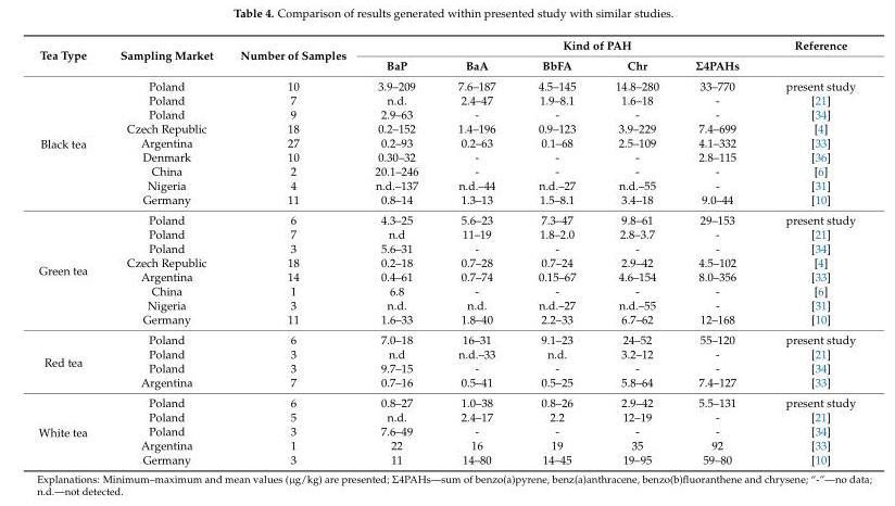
<table><thead><tr><td rowspan="2">Tea Type</td><td rowspan="2">Sampling Market</td><td rowspan="2">Number of Samples</td><td rowspan="2">BaP</td><td colspan="4">Kind of PAH</td><td rowspan="2">Reference</td></tr><tr><td>BaA</td><td>BbFA</td><td>Chr</td><td>Σ4PAHs</td></tr></thead><tbody><tr><td rowspan="9">Black tea</td><td>Poland</td><td>10</td><td>3.9–209</td><td>7.6–187</td><td>4.5–145</td><td>14.8–280</td><td>33–770</td><td>present study</td></tr><tr><td>Poland</td><td>7</td><td>n.d.</td><td>2.4–47</td><td>1.9–8.1</td><td>1.6–18</td><td>-</td><td>[21]</td></tr><tr><td>Poland</td><td>9</td><td>2.9–63</td><td>-</td><td>-</td><td>-</td><td>-</td><td>[34]</td></tr><tr><td>Czech Republic</td><td>18</td><td>0.2–152</td><td>1.4–196</td><td>0.9–123</td><td>3.9–229</td><td>7.4–699</td><td>[4]</td></tr><tr><td>Argentina</td><td>27</td><td>0.2–93</td><td>0.2–63</td><td>0.1–68</td><td>2.5–109</td><td>4.1–332</td><td>[33]</td></tr><tr><td>Denmark</td><td>10</td><td>0.30–32</td><td>-</td><td>-</td><td>-</td><td>2.8–115</td><td>[36]</td></tr><tr><td>China</td><td>2</td><td>20.1–246</td><td>-</td><td>-</td><td>-</td><td>-</td><td>[6]</td></tr><tr><td>Nigeria</td><td>4</td><td>n.d.–137</td><td>n.d.–44</td><td>n.d.–27</td><td>n.d.–55</td><td>-</td><td>[31]</td></tr><tr><td>Germany</td><td>11</td><td>0.8–14</td><td>1.3–13</td><td>1.5–8.1</td><td>3.4–18</td><td>9.0–44</td><td>[10]</td></tr><tr><td rowspan="8">Green tea</td><td>Poland</td><td>6</td><td>4.3–25</td><td>5.6–23</td><td>7.3–47</td><td>9.8–61</td><td>29–153</td><td>present study</td></tr><tr><td>Poland</td><td>7</td><td>n.d</td><td>11–19</td><td>1.8–2.0</td><td>2.8–3.7</td><td>-</td><td>[21]</td></tr><tr><td>Poland</td><td>3</td><td>5.6–31</td><td>-</td><td>-</td><td>-</td><td>-</td><td>[34]</td></tr><tr><td>Czech Republic</td><td>18</td><td>0.2–18</td><td>0.7–28</td><td>0.7–24</td><td>2.9–42</td><td>4.5–102</td><td>[4]</td></tr><tr><td>Argentina</td><td>14</td><td>0.4–61</td><td>0.7–74</td><td>0.15–67</td><td>4.6–154</td><td>8.0–356</td><td>[33]</td></tr><tr><td>China</td><td>1</td><td>6.8</td><td>-</td><td>-</td><td>-</td><td>-</td><td>[6]</td></tr><tr><td>Nigeria</td><td>3</td><td>n.d.</td><td>n.d.</td><td>n.d.–27</td><td>n.d.–55</td><td>-</td><td>[31]</td></tr><tr><td>Germany</td><td>11</td><td>1.6–33</td><td>1.8–40</td><td>2.2–33</td><td>6.7–62</td><td>12–168</td><td>[10]</td></tr><tr><td rowspan="4">Red tea</td><td>Poland</td><td>6</td><td>7.0–18</td><td>16–31</td><td>9.1–23</td><td>24–52</td><td>55–120</td><td>present study</td></tr><tr><td>Poland</td><td>3</td><td>n.d</td><td>n.d.–33</td><td>n.d.</td><td>3.2–12</td><td>-</td><td>[21]</td></tr><tr><td>Poland</td><td>3</td><td>9.7–15</td><td>-</td><td>-</td><td>-</td><td>-</td><td>[34]</td></tr><tr><td>Argentina</td><td>7</td><td>0.7–16</td><td>0.5–41</td><td>0.5–25</td><td>5.8–64</td><td>7.4–127</td><td>[33]</td></tr><tr><td rowspan="5">White tea</td><td>Poland</td><td>6</td><td>0.8–27</td><td>1.0–38</td><td>0.8–26</td><td>2.9–42</td><td>5.5–131</td><td>present study</td></tr><tr><td>Poland</td><td>5</td><td>n.d.</td><td>2.4–17</td><td>2.2</td><td>12–19</td><td>-</td><td>[21]</td></tr><tr><td>Poland</td><td>3</td><td>7.6–49</td><td>-</td><td>-</td><td>-</td><td>-</td><td>[34]</td></tr><tr><td>Argentina</td><td>1</td><td>22</td><td>16</td><td>19</td><td>35</td><td>92</td><td>[33]</td></tr><tr><td>Germany</td><td>3</td><td>11</td><td>14–80</td><td>14–45</td><td>19–95</td><td>59–80</td><td>[10]</td></tr></tbody></table>